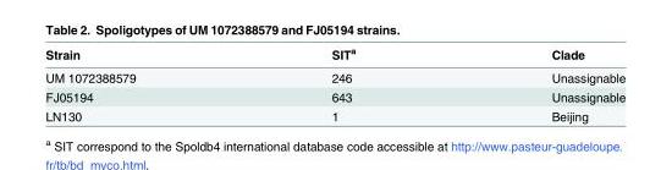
<table><thead><tr><td>Strain</td><td>SIT<sup>a</sup></td><td>Clade</td></tr></thead><tbody><tr><td>UM 1072388579</td><td>246</td><td>Unassignable</td></tr><tr><td>FJ05194</td><td>643</td><td>Unassignable</td></tr><tr><td>LN130</td><td>1</td><td>Beijing</td></tr></tbody></table>